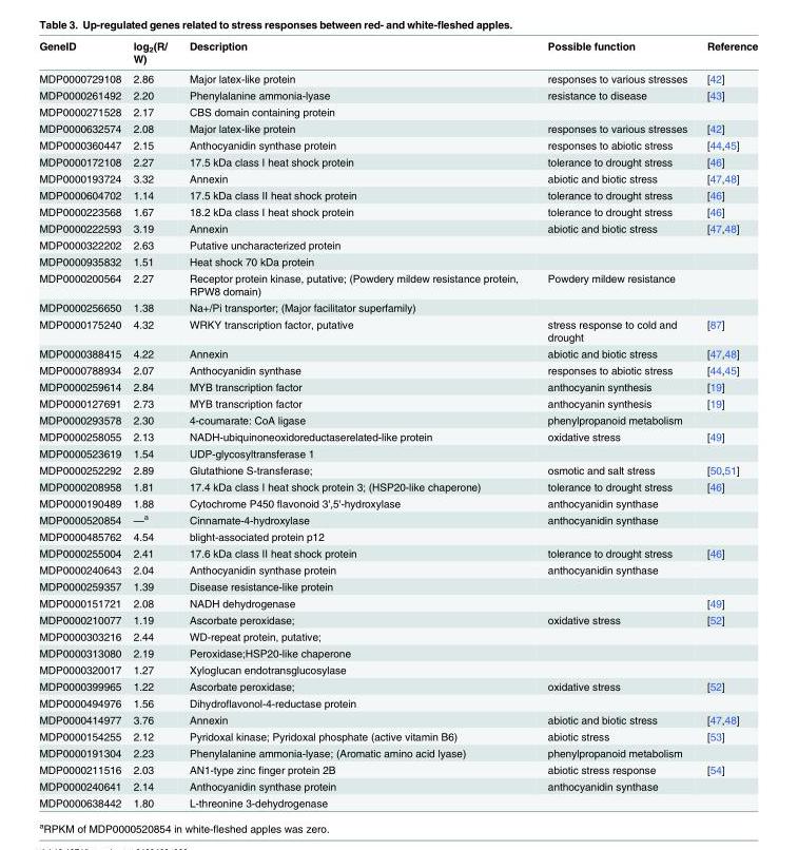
<table><thead><tr><td>GeneID</td><td>log<sub>2</sub>(R/ W)</td><td>Description</td><td>Possible function</td><td>Reference</td></tr></thead><tbody><tr><td>MDP0000729108</td><td>2.86</td><td>Major latex-like protein</td><td>responses to various stresses</td><td>[42]</td></tr><tr><td>MDP0000261492</td><td>2.20</td><td>Phenylalanine ammonia-lyase</td><td>resistance to disease</td><td>[43]</td></tr><tr><td>MDP0000271528</td><td>2.17</td><td>CBS domain containing protein</td><td></td><td></td></tr><tr><td>MDP0000632574</td><td>2.08</td><td>Major latex-like protein</td><td>responses to various stresses</td><td>[42]</td></tr><tr><td>MDP0000360447</td><td>2.15</td><td>Anthocyanidin synthase protein</td><td>responses to abiotic stress</td><td>[44,45]</td></tr><tr><td>MDP0000172108</td><td>2.27</td><td>17.5 kDa class I heat shock protein</td><td>tolerance to drought stress</td><td>[46]</td></tr><tr><td>MDP0000193724</td><td>3.32</td><td>Annexin</td><td>abiotic and biotic stress</td><td>[47,48]</td></tr><tr><td>MDP0000604702</td><td>1.14</td><td>17.5 kDa class II heat shock protein</td><td>tolerance to drought stress</td><td>[46]</td></tr><tr><td>MDP0000223568</td><td>1.67</td><td>18.2 kDa class I heat shock protein</td><td>tolerance to drought stress</td><td>[46]</td></tr><tr><td>MDP0000222593</td><td>3.19</td><td>Annexin</td><td>abiotic and biotic stress</td><td>[47,48]</td></tr><tr><td>MDP0000322202</td><td>2.63</td><td>Putative uncharacterized protein</td><td></td><td></td></tr><tr><td>MDP0000935832</td><td>1.51</td><td>Heat shock 70 kDa protein</td><td></td><td></td></tr><tr><td>MDP0000200564</td><td>2.27</td><td>Receptor protein kinase, putative; (Powdery mildew resistance protein, RPW8 domain)</td><td>Powdery mildew resistance</td><td></td></tr><tr><td>MDP0000256650</td><td>1.38</td><td>Na+/Pi transporter; (Major facilitator superfamily)</td><td></td><td></td></tr><tr><td>MDP0000175240</td><td>4.32</td><td>WRKY transcription factor, putative</td><td>stress response to cold and drought</td><td>[87]</td></tr><tr><td>MDP0000388415</td><td>4.22</td><td>Annexin</td><td>abiotic and biotic stress</td><td>[47,48]</td></tr><tr><td>MDP0000788934</td><td>2.07</td><td>Anthocyanidin synthase</td><td>responses to abiotic stress</td><td>[44,45]</td></tr><tr><td>MDP0000259614</td><td>2.84</td><td>MYB transcription factor</td><td>anthocyanin synthesis</td><td>[19]</td></tr><tr><td>MDP0000127691</td><td>2.73</td><td>MYB transcription factor</td><td>anthocyanin synthesis</td><td>[19]</td></tr><tr><td>MDP0000293578</td><td>2.30</td><td>4-coumarate: CoA ligase</td><td>phenylpropanoid metabolism</td><td></td></tr><tr><td>MDP0000258055</td><td>2.13</td><td>NADH-ubiquinoneoxidoreductaserelated-like protein</td><td>oxidative stress</td><td>[49]</td></tr><tr><td>MDP0000523619</td><td>1.54</td><td>UDP-glycosyltransferase 1</td><td></td><td></td></tr><tr><td>MDP0000252292</td><td>2.89</td><td>Glutathione S-transferase;</td><td>osmotic and salt stress</td><td>[50,51]</td></tr><tr><td>MDP0000208958</td><td>1.81</td><td>17.4 kDa class I heat shock protein 3; (HSP20-like chaperone)</td><td>tolerance to drought stress</td><td>[46]</td></tr><tr><td>MDP0000190489</td><td>1.88</td><td>Cytochrome P450 flavonoid 3&#x27;,5&#x27;-hydroxylase</td><td>anthocyanidin synthase</td><td></td></tr><tr><td>MDP0000520854</td><td>—<sup>a</sup></td><td>Cinnamate-4-hydroxylase</td><td>anthocyanidin synthase</td><td></td></tr><tr><td>MDP0000485762</td><td>4.54</td><td>blight-associated protein p12</td><td></td><td></td></tr><tr><td>MDP0000255004</td><td>2.41</td><td>17.6 kDa class II heat shock protein</td><td>tolerance to drought stress</td><td>[46]</td></tr><tr><td>MDP0000240643</td><td>2.04</td><td>Anthocyanidin synthase protein</td><td>anthocyanidin synthase</td><td></td></tr><tr><td>MDP0000259357</td><td>1.39</td><td>Disease resistance-like protein</td><td></td><td></td></tr><tr><td>MDP0000151721</td><td>2.08</td><td>NADH dehydrogenase</td><td></td><td>[49]</td></tr><tr><td>MDP0000210077</td><td>1.19</td><td>Ascorbate peroxidase;</td><td>oxidative stress</td><td>[52]</td></tr><tr><td>MDP0000303216</td><td>2.44</td><td>WD-repeat protein, putative;</td><td></td><td></td></tr><tr><td>MDP0000313080</td><td>2.19</td><td>Peroxidase;HSP20-like chaperone</td><td></td><td></td></tr><tr><td>MDP0000320017</td><td>1.27</td><td>Xyloglucan endotransglucosylase</td><td></td><td></td></tr><tr><td>MDP0000399965</td><td>1.22</td><td>Ascorbate peroxidase;</td><td>oxidative stress</td><td>[52]</td></tr><tr><td>MDP0000494976</td><td>1.56</td><td>Dihydroflavonol-4-reductase protein</td><td></td><td></td></tr><tr><td>MDP0000414977</td><td>3.76</td><td>Annexin</td><td>abiotic and biotic stress</td><td>[47,48]</td></tr><tr><td>MDP0000154255</td><td>2.12</td><td>Pyridoxal kinase; Pyridoxal phosphate (active vitamin B6)</td><td>abiotic stress</td><td>[53]</td></tr><tr><td>MDP0000191304</td><td>2.23</td><td>Phenylalanine ammonia-lyase; (Aromatic amino acid lyase)</td><td>phenylpropanoid metabolism</td><td></td></tr><tr><td>MDP0000211516</td><td>2.03</td><td>AN1-type zinc finger protein 2B</td><td>abiotic stress response</td><td>[54]</td></tr><tr><td>MDP0000240641</td><td>2.14</td><td>Anthocyanidin synthase protein</td><td>anthocyanidin synthase</td><td></td></tr><tr><td>MDP0000638442</td><td>1.80</td><td>L-threonine 3-dehydrogenase</td><td></td><td></td></tr></tbody></table>